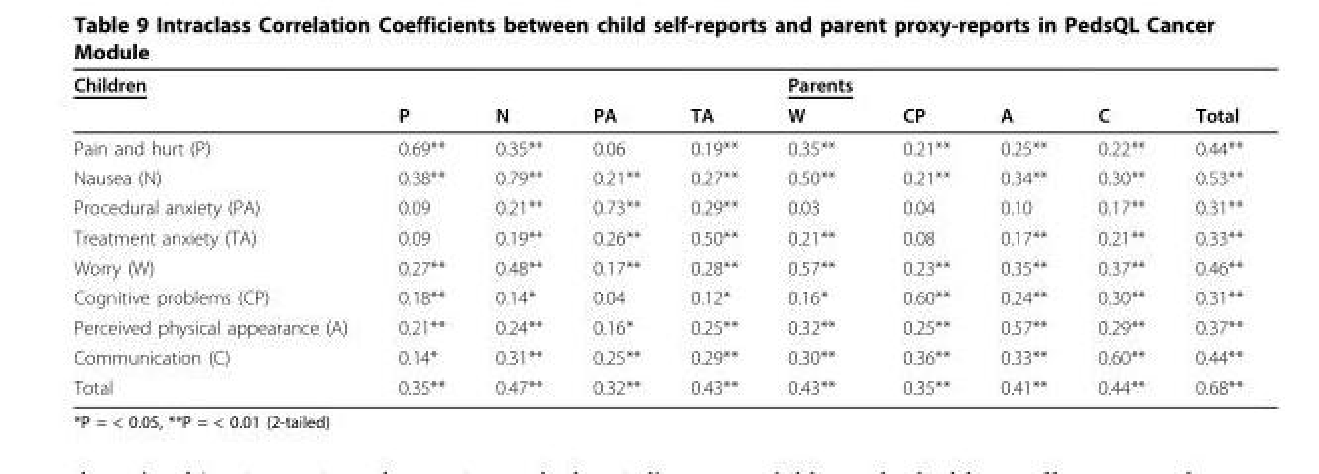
<table><thead><tr><td rowspan="2">Children</td><td rowspan="2">P</td><td rowspan="2">N</td><td rowspan="2">PA</td><td rowspan="2">TA</td><td rowspan="2">Parents W</td><td rowspan="2">CP</td><td rowspan="2">A</td><td rowspan="2">C</td><td rowspan="2">Total</td></tr><tr></tr></thead><tbody><tr><td>Pain and hurt (P)</td><td>0.69**</td><td>0.35**</td><td>0.06</td><td>0.19**</td><td>0.35**</td><td>0.21**</td><td>0.25**</td><td>0.22**</td><td>0.44**</td></tr><tr><td>Nausea (N)</td><td>0.38**</td><td>0.79**</td><td>0.21**</td><td>0.27**</td><td>0.50**</td><td>0.21**</td><td>0.34**</td><td>0.30**</td><td>0.53**</td></tr><tr><td>Procedural anxiety (PA)</td><td>0.09</td><td>0.21**</td><td>0.73**</td><td>0.29**</td><td>0.03</td><td>0.04</td><td>0.10</td><td>0.17**</td><td>0.31**</td></tr><tr><td>Treatment anxiety (TA)</td><td>0.09</td><td>0.19**</td><td>0.26**</td><td>0.50**</td><td>0.21**</td><td>0.08</td><td>0.17**</td><td>0.21**</td><td>0.33**</td></tr><tr><td>Worry (W)</td><td>0.27**</td><td>0.48**</td><td>0.17**</td><td>0.28**</td><td>0.57**</td><td>0.23**</td><td>0.35**</td><td>0.37**</td><td>0.46**</td></tr><tr><td>Cognitive problems (CP)</td><td>0.18**</td><td>0.14*</td><td>0.04</td><td>0.12*</td><td>0.16*</td><td>0.60**</td><td>0.24**</td><td>0.30**</td><td>0.31**</td></tr><tr><td>Perceived physical appearance (A)</td><td>0.21**</td><td>0.24**</td><td>0.16*</td><td>0.25**</td><td>0.32**</td><td>0.25**</td><td>0.57**</td><td>0.29**</td><td>0.37**</td></tr><tr><td>Communication (C)</td><td>0.14*</td><td>0.31**</td><td>0.25**</td><td>0.29**</td><td>0.30**</td><td>0.36**</td><td>0.33**</td><td>0.60**</td><td>0.44**</td></tr><tr><td>Total</td><td>0.35**</td><td>0.47**</td><td>0.32**</td><td>0.43**</td><td>0.43**</td><td>0.35**</td><td>0.41**</td><td>0.44**</td><td>0.68**</td></tr></tbody></table>